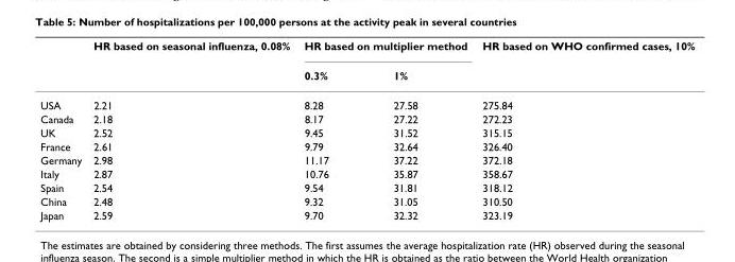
<table><thead><tr><td rowspan="2"></td><td rowspan="2">HR based on seasonal influenza, 0.08%</td><td colspan="2">HR based on multiplier method</td><td rowspan="2">HR based on WHO confirmed cases, 10%</td></tr><tr><td>0.3%</td><td>1%</td></tr></thead><tbody><tr><td>USA</td><td>2.21</td><td>8.28</td><td>27.58</td><td>275.84</td></tr><tr><td>Canada</td><td>2.18</td><td>8.17</td><td>27.22</td><td>272.23</td></tr><tr><td>UK</td><td>2.52</td><td>9.45</td><td>31.52</td><td>315.15</td></tr><tr><td>France</td><td>2.61</td><td>9.79</td><td>32.64</td><td>326.40</td></tr><tr><td>Germany</td><td>2.98</td><td>11.17</td><td>37.22</td><td>372.18</td></tr><tr><td>Italy</td><td>2.87</td><td>10.76</td><td>35.87</td><td>358.67</td></tr><tr><td>Spain</td><td>2.54</td><td>9.54</td><td>31.81</td><td>318.12</td></tr><tr><td>China</td><td>2.48</td><td>9.32</td><td>31.05</td><td>310.50</td></tr><tr><td>Japan</td><td>2.59</td><td>9.70</td><td>32.32</td><td>323.19</td></tr></tbody></table>